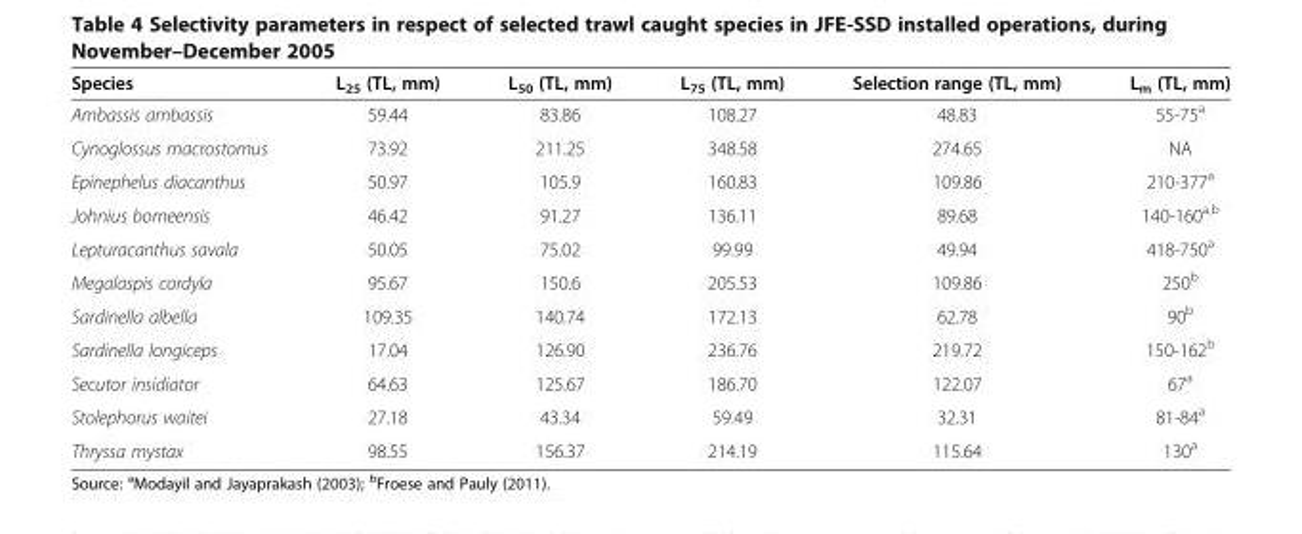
<table><thead><tr><td>Species</td><td>L<sub>25</sub> (TL, mm)</td><td>L<sub>50</sub> (TL, mm)</td><td>L<sub>75</sub> (TL, mm)</td><td>Selection range (TL, mm)</td><td>L<sub>m</sub> (TL, mm)</td></tr></thead><tbody><tr><td>Ambassis ambassis</td><td>59.44</td><td>83.86</td><td>108.27</td><td>48.83</td><td>55-75<sup>a</sup></td></tr><tr><td>Cynoglossus macrostomus</td><td>73.92</td><td>211.25</td><td>348.58</td><td>274.65</td><td>NA</td></tr><tr><td>Epinephelus diacanthus</td><td>50.97</td><td>105.9</td><td>160.83</td><td>109.86</td><td>210-377<sup>a</sup></td></tr><tr><td>Johnius borneensis</td><td>46.42</td><td>91.27</td><td>136.11</td><td>89.68</td><td>140-160<sup>a,b</sup></td></tr><tr><td>Lepturacanthus savala</td><td>50.05</td><td>75.02</td><td>99.99</td><td>49.94</td><td>418-750<sup>a</sup></td></tr><tr><td>Megalaspis cordyla</td><td>95.67</td><td>150.6</td><td>205.53</td><td>109.86</td><td>250<sup>b</sup></td></tr><tr><td>Sardinella albella</td><td>109.35</td><td>140.74</td><td>172.13</td><td>62.78</td><td>90<sup>b</sup></td></tr><tr><td>Sardinella longiceps</td><td>17.04</td><td>126.90</td><td>236.76</td><td>219.72</td><td>150-162<sup>b</sup></td></tr><tr><td>Secutor insidiator</td><td>64.63</td><td>125.67</td><td>186.70</td><td>122.07</td><td>67<sup>a</sup></td></tr><tr><td>Stolephorus waitei</td><td>27.18</td><td>43.34</td><td>59.49</td><td>32.31</td><td>81-84<sup>a</sup></td></tr><tr><td>Thryssa mystax</td><td>98.55</td><td>156.37</td><td>214.19</td><td>115.64</td><td>130<sup>a</sup></td></tr></tbody></table>